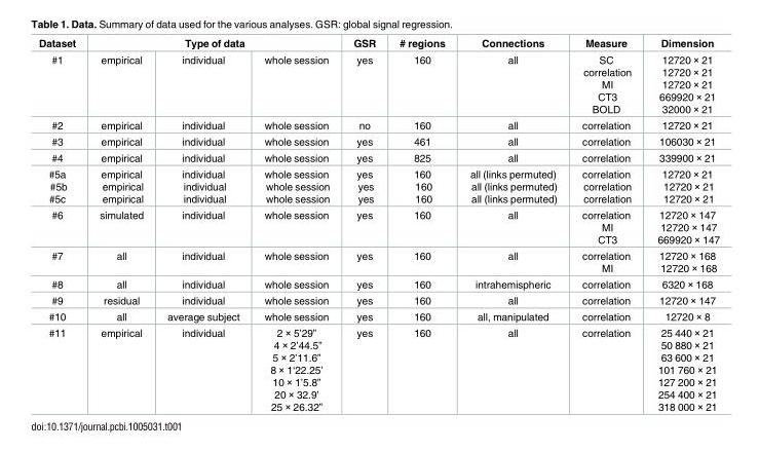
<table><thead><tr><td rowspan="2">Dataset #1</td><td colspan="3">Type of data</td><td rowspan="2">GSR yes</td><td rowspan="2"># regions 160</td><td rowspan="2">Connections all</td><td rowspan="2">Measure SC correlation MI CT3 BOLD</td><td rowspan="2">Dimension 12720 × 21 12720 × 21 12720 × 21 669920 × 21 32000 × 21</td></tr><tr><td>empirical</td><td>individual</td><td>whole session</td></tr></thead><tbody><tr><td>#2</td><td>empirical</td><td>individual</td><td>whole session</td><td>no</td><td>160</td><td>all</td><td>correlation</td><td>12720 × 21</td></tr><tr><td>#3</td><td>empirical</td><td>individual</td><td>whole session</td><td>yes</td><td>461</td><td>all</td><td>correlation</td><td>106030 × 21</td></tr><tr><td>#4</td><td>empirical</td><td>individual</td><td>whole session</td><td>yes</td><td>825</td><td>all</td><td>correlation</td><td>339900 × 21</td></tr><tr><td>#5a #5b #5c</td><td>empirical empirical empirical</td><td>individual individual individual</td><td>whole session whole session whole session</td><td>yes yes yes</td><td>160 160 160</td><td>all (links permuted) all (links permuted) all (links permuted)</td><td>correlation correlation correlation</td><td>12720 × 21 12720 × 21 12720 × 21</td></tr><tr><td>#6</td><td>simulated</td><td>individual</td><td>whole session</td><td>yes</td><td>160</td><td>all</td><td>correlation MI CT3</td><td>12720 × 147 12720 × 147 669920 × 147</td></tr><tr><td>#7</td><td>all</td><td>individual</td><td>whole session</td><td>yes</td><td>160</td><td>all</td><td>correlation MI</td><td>12720 × 168 12720 × 168</td></tr><tr><td>#8</td><td>all</td><td>individual</td><td>whole session</td><td>yes</td><td>160</td><td>intrahemispheric</td><td>correlation</td><td>6320 × 168</td></tr><tr><td>#9</td><td>residual</td><td>individual</td><td>whole session</td><td>yes</td><td>160</td><td>all</td><td>correlation</td><td>12720 × 147</td></tr><tr><td>#10</td><td>all</td><td>average subject</td><td>whole session</td><td>yes</td><td>160</td><td>all, manipulated</td><td>correlation</td><td>12720 × 8</td></tr><tr><td>#11</td><td>empirical</td><td>individual</td><td>2 × 5’29” 4 × 2’44.5” 5 × 2’11.6” 8 × 1‘22.25’ 10 × 1’5.8” 20 × 32.9’ 25 × 26.32”</td><td>yes</td><td>160</td><td>all</td><td>correlation</td><td>25 440 × 21 50 880 × 21 63 600 × 21 101 760 × 21 127 200 × 21 254 400 × 21 318 000 × 21</td></tr></tbody></table>